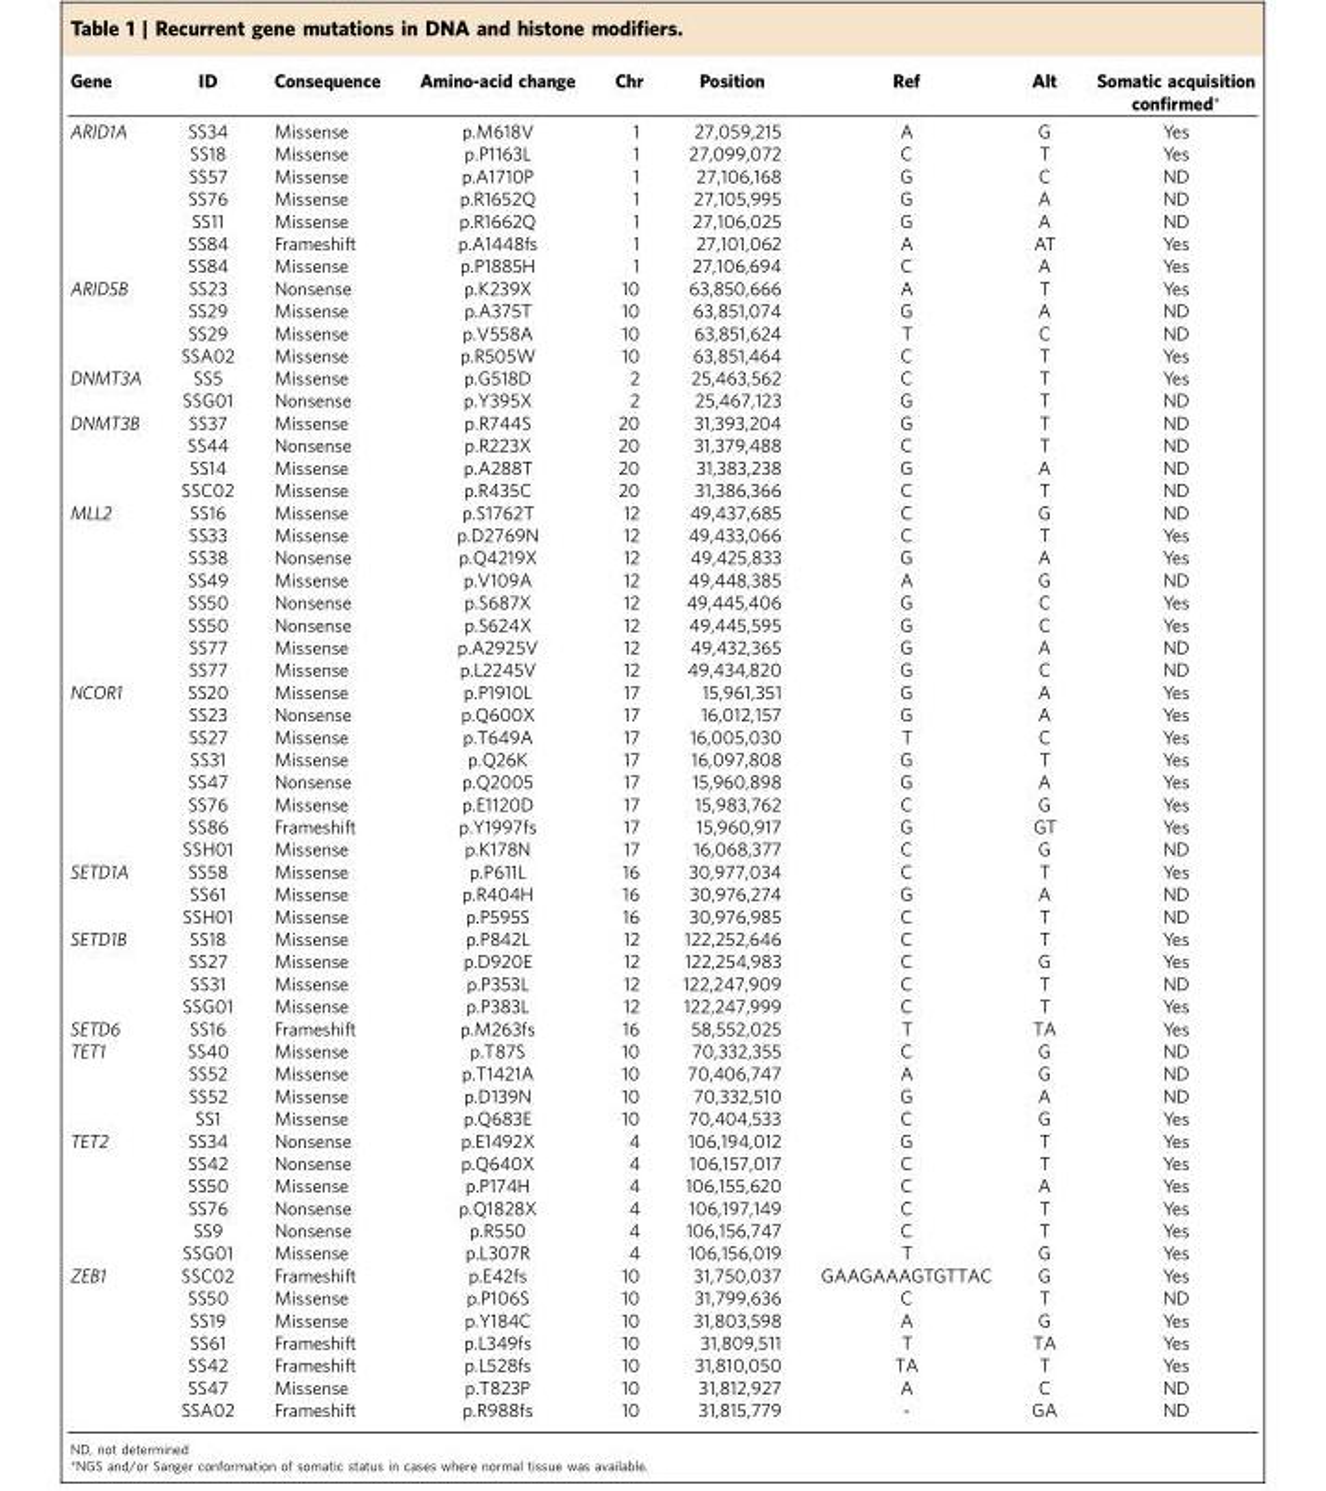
<table><thead><tr><td>Gene</td><td>ID</td><td>Consequence</td><td>Amino-acid change</td><td>Chr</td><td>Position</td><td>Ref</td><td>Alt</td><td>Somatic acquisition confirmed*</td></tr></thead><tbody><tr><td rowspan="7">ARID1A</td><td>SS34</td><td>Missense</td><td>p.M618V</td><td>1</td><td>27,059,215</td><td>A</td><td>G</td><td>Yes</td></tr><tr><td>SS18</td><td>Missense</td><td>p.P1163L</td><td>1</td><td>27,099,072</td><td>C</td><td>T</td><td>Yes</td></tr><tr><td>SS57</td><td>Missense</td><td>p.A1710P</td><td>1</td><td>27,106,168</td><td>G</td><td>C</td><td>ND</td></tr><tr><td>SS76</td><td>Missense</td><td>p.R1652Q</td><td>1</td><td>27,105,995</td><td>G</td><td>A</td><td>ND</td></tr><tr><td>SS11</td><td>Missense</td><td>p.R1662Q</td><td>1</td><td>27,106,025</td><td>G</td><td>A</td><td>ND</td></tr><tr><td>SS84</td><td>Frameshift</td><td>p.A1448fs</td><td>1</td><td>27,101,062</td><td>A</td><td>AT</td><td>Yes</td></tr><tr><td>SS84</td><td>Missense</td><td>p.P1885H</td><td>1</td><td>27,106,694</td><td>C</td><td>A</td><td>Yes</td></tr><tr><td rowspan="4">ARID5B</td><td>SS23</td><td>Nonsense</td><td>p.K239X</td><td>10</td><td>63,850,666</td><td>A</td><td>T</td><td>Yes</td></tr><tr><td>SS29</td><td>Missense</td><td>p.A375T</td><td>10</td><td>63,851,074</td><td>G</td><td>A</td><td>ND</td></tr><tr><td>SS29</td><td>Missense</td><td>p.V558A</td><td>10</td><td>63,851,624</td><td>T</td><td>C</td><td>ND</td></tr><tr><td>SSA02</td><td>Missense</td><td>p.R505W</td><td>10</td><td>63,851,464</td><td>C</td><td>T</td><td>Yes</td></tr><tr><td rowspan="2">DNMT3A</td><td>SS5</td><td>Missense</td><td>p.G518D</td><td>2</td><td>25,463,562</td><td>C</td><td>T</td><td>Yes</td></tr><tr><td>SSG01</td><td>Nonsense</td><td>p.Y395X</td><td>2</td><td>25,467,123</td><td>G</td><td>T</td><td>ND</td></tr><tr><td rowspan="4">DNMT3B</td><td>SS37</td><td>Missense</td><td>p.R744S</td><td>20</td><td>31,393,204</td><td>G</td><td>T</td><td>ND</td></tr><tr><td>SS44</td><td>Nonsense</td><td>p.R223X</td><td>20</td><td>31,379,488</td><td>C</td><td>T</td><td>ND</td></tr><tr><td>SS14</td><td>Missense</td><td>p.A288T</td><td>20</td><td>31,383,238</td><td>G</td><td>A</td><td>ND</td></tr><tr><td>SSC02</td><td>Missense</td><td>p.R435C</td><td>20</td><td>31,386,366</td><td>C</td><td>T</td><td>ND</td></tr><tr><td rowspan="8">MLL2</td><td>SS16</td><td>Missense</td><td>p.S1762T</td><td>12</td><td>49,437,685</td><td>C</td><td>G</td><td>ND</td></tr><tr><td>SS33</td><td>Missense</td><td>p.D2769N</td><td>12</td><td>49,433,066</td><td>C</td><td>T</td><td>Yes</td></tr><tr><td>SS38</td><td>Nonsense</td><td>p.Q4219X</td><td>12</td><td>49,425,833</td><td>G</td><td>A</td><td>Yes</td></tr><tr><td>SS49</td><td>Missense</td><td>p.V109A</td><td>12</td><td>49,448,385</td><td>A</td><td>G</td><td>ND</td></tr><tr><td>SS50</td><td>Nonsense</td><td>p.S687X</td><td>12</td><td>49,445,406</td><td>G</td><td>C</td><td>Yes</td></tr><tr><td>SS50</td><td>Nonsense</td><td>p.S624X</td><td>12</td><td>49,445,595</td><td>G</td><td>C</td><td>Yes</td></tr><tr><td>SS77</td><td>Missense</td><td>p.A2925V</td><td>12</td><td>49,432,365</td><td>G</td><td>A</td><td>ND</td></tr><tr><td>SS77</td><td>Missense</td><td>p.L2245V</td><td>12</td><td>49,434,820</td><td>G</td><td>C</td><td>ND</td></tr><tr><td rowspan="8">NCOR1</td><td>SS20</td><td>Missense</td><td>p.P1910L</td><td>17</td><td>15,961,351</td><td>G</td><td>A</td><td>Yes</td></tr><tr><td>SS23</td><td>Nonsense</td><td>p.Q600X</td><td>17</td><td>16,012,157</td><td>G</td><td>A</td><td>Yes</td></tr><tr><td>SS27</td><td>Missense</td><td>p.T649A</td><td>17</td><td>16,005,030</td><td>T</td><td>C</td><td>Yes</td></tr><tr><td>SS31</td><td>Missense</td><td>p.Q26K</td><td>17</td><td>16,097,808</td><td>G</td><td>T</td><td>Yes</td></tr><tr><td>SS47</td><td>Nonsense</td><td>p.Q2005</td><td>17</td><td>15,960,898</td><td>G</td><td>A</td><td>Yes</td></tr><tr><td>SS76</td><td>Missense</td><td>p.E1120D</td><td>17</td><td>15,983,762</td><td>C</td><td>G</td><td>Yes</td></tr><tr><td>SS86</td><td>Frameshift</td><td>p.Y1997fs</td><td>17</td><td>15,960,917</td><td>G</td><td>GT</td><td>Yes</td></tr><tr><td>SSH01</td><td>Missense</td><td>p.K178N</td><td>17</td><td>16,068,377</td><td>C</td><td>G</td><td>ND</td></tr><tr><td rowspan="3">SETD1A</td><td>SS58</td><td>Missense</td><td>p.P611L</td><td>16</td><td>30,977,034</td><td>C</td><td>T</td><td>Yes</td></tr><tr><td>SS61</td><td>Missense</td><td>p.R404H</td><td>16</td><td>30,976,274</td><td>G</td><td>A</td><td>ND</td></tr><tr><td>SSH01</td><td>Missense</td><td>p.P595S</td><td>16</td><td>30,976,985</td><td>C</td><td>T</td><td>ND</td></tr><tr><td rowspan="4">SETD1B</td><td>SS18</td><td>Missense</td><td>p.P842L</td><td>12</td><td>122,252,646</td><td>C</td><td>T</td><td>Yes</td></tr><tr><td>SS27</td><td>Missense</td><td>p.D920E</td><td>12</td><td>122,254,983</td><td>C</td><td>G</td><td>Yes</td></tr><tr><td>SS31</td><td>Missense</td><td>p.P353L</td><td>12</td><td>122,247,909</td><td>C</td><td>T</td><td>ND</td></tr><tr><td>SSG01</td><td>Missense</td><td>p.P383L</td><td>12</td><td>122,247,999</td><td>C</td><td>T</td><td>Yes</td></tr><tr><td>SETD6</td><td>SS16</td><td>Frameshift</td><td>p.M263fs</td><td>16</td><td>58,552,025</td><td>T</td><td>TA</td><td>Yes</td></tr><tr><td rowspan="4">TET1</td><td>SS40</td><td>Missense</td><td>p.T87S</td><td>10</td><td>70,332,355</td><td>C</td><td>G</td><td>ND</td></tr><tr><td>SS52</td><td>Missense</td><td>p.T1421A</td><td>10</td><td>70,406,747</td><td>A</td><td>G</td><td>ND</td></tr><tr><td>SS52</td><td>Missense</td><td>p.D139N</td><td>10</td><td>70,332,510</td><td>G</td><td>A</td><td>ND</td></tr><tr><td>SS1</td><td>Missense</td><td>p.Q683E</td><td>10</td><td>70,404,533</td><td>C</td><td>G</td><td>Yes</td></tr><tr><td rowspan="6">TET2</td><td>SS34</td><td>Nonsense</td><td>p.E1492X</td><td>4</td><td>106,194,012</td><td>G</td><td>T</td><td>Yes</td></tr><tr><td>SS42</td><td>Nonsense</td><td>p.Q640X</td><td>4</td><td>106,157,017</td><td>C</td><td>T</td><td>Yes</td></tr><tr><td>SS50</td><td>Missense</td><td>p.P174H</td><td>4</td><td>106,155,620</td><td>C</td><td>A</td><td>Yes</td></tr><tr><td>SS76</td><td>Nonsense</td><td>p.Q1828X</td><td>4</td><td>106,197,149</td><td>C</td><td>T</td><td>Yes</td></tr><tr><td>SS9</td><td>Nonsense</td><td>p.R550</td><td>4</td><td>106,156,747</td><td>C</td><td>T</td><td>Yes</td></tr><tr><td>SSG01</td><td>Missense</td><td>p.L307R</td><td>4</td><td>106,156,019</td><td>T</td><td>G</td><td>Yes</td></tr><tr><td rowspan="7">ZEB1</td><td>SSC02</td><td>Frameshift</td><td>p.E42fs</td><td>10</td><td>31,750,037</td><td>GAAGAAAGTGTTAC</td><td>G</td><td>Yes</td></tr><tr><td>SS50</td><td>Missense</td><td>p.P106S</td><td>10</td><td>31,799,636</td><td>C</td><td>T</td><td>ND</td></tr><tr><td>SS19</td><td>Missense</td><td>p.Y184C</td><td>10</td><td>31,803,598</td><td>A</td><td>G</td><td>Yes</td></tr><tr><td>SS61</td><td>Frameshift</td><td>p.L349fs</td><td>10</td><td>31,809,511</td><td>T</td><td>TA</td><td>Yes</td></tr><tr><td>SS42</td><td>Frameshift</td><td>p.L528fs</td><td>10</td><td>31,810,050</td><td>TA</td><td>T</td><td>Yes</td></tr><tr><td>SS47</td><td>Missense</td><td>p.T823P</td><td>10</td><td>31,812,927</td><td>A</td><td>C</td><td>ND</td></tr><tr><td>SSA02</td><td>Frameshift</td><td>p.R988fs</td><td>10</td><td>31,815,779</td><td>-</td><td>GA</td><td>ND</td></tr></tbody></table>